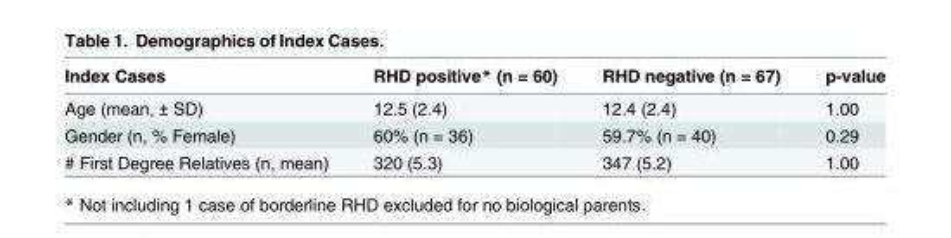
<table><thead><tr><td>Index Cases</td><td>RHD positive* (n = 60)</td><td>RHD negative (n = 67)</td><td>p-value</td></tr></thead><tbody><tr><td>Age (mean, ± SD)</td><td>12.5 (2.4)</td><td>12.4 (2.4)</td><td>1.00</td></tr><tr><td>Gender (n, % Female)</td><td>60% (n = 36)</td><td>59.7% (n = 40)</td><td>0.29</td></tr><tr><td># First Degree Relatives (n, mean)</td><td>320 (5.3)</td><td>347 (5.2)</td><td>1.00</td></tr></tbody></table>